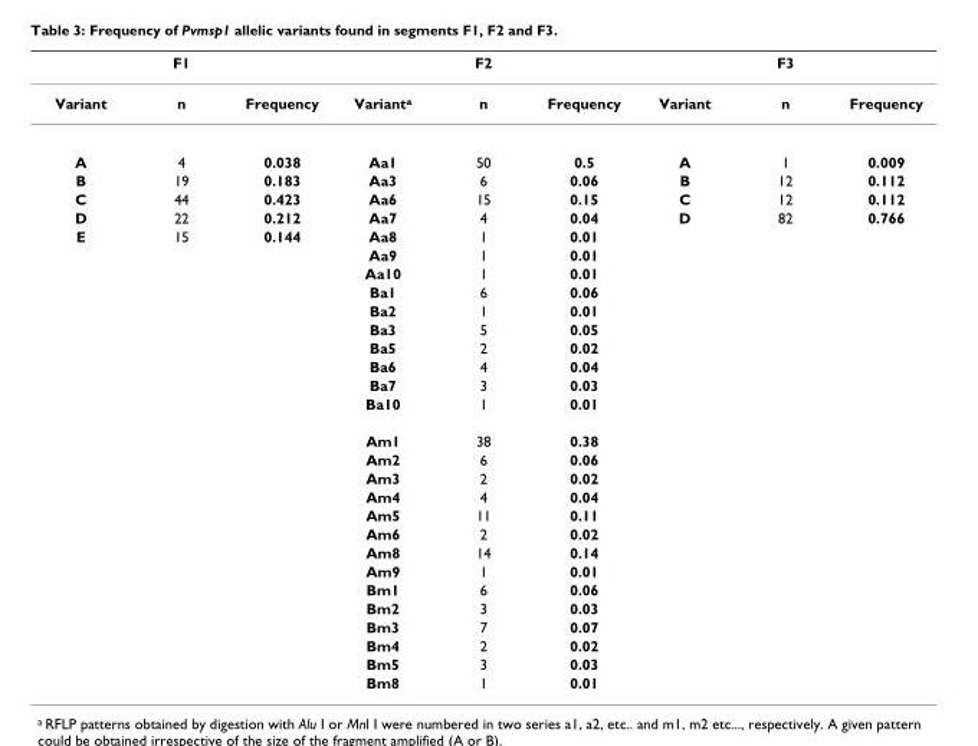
<table><thead><tr><td colspan="3">F1</td><td colspan="3">F2</td><td colspan="3">F3</td></tr><tr><td>Variant</td><td>n</td><td>Frequency</td><td>Variant<sup>a</sup></td><td>n</td><td>Frequency</td><td>Variant</td><td>n</td><td>Frequency</td></tr></thead><tbody><tr><td>A</td><td>4</td><td>0.038</td><td>Aa1</td><td>50</td><td>0.5</td><td>A</td><td>1</td><td>0.009</td></tr><tr><td>B</td><td>19</td><td>0.183</td><td>Aa3</td><td>6</td><td>0.06</td><td>B</td><td>12</td><td>0.112</td></tr><tr><td>C</td><td>44</td><td>0.423</td><td>Aa6</td><td>15</td><td>0.15</td><td>C</td><td>12</td><td>0.112</td></tr><tr><td>D</td><td>22</td><td>0.212</td><td>Aa7</td><td>4</td><td>0.04</td><td>D</td><td>82</td><td>0.766</td></tr><tr><td rowspan="24">E</td><td>15</td><td>0.144</td><td>Aa8</td><td>1</td><td>0.01</td><td></td><td></td><td></td></tr><tr><td></td><td></td><td>Aa9</td><td>1</td><td>0.01</td><td></td><td></td><td></td></tr><tr><td></td><td></td><td>Aa10</td><td>1</td><td>0.01</td><td></td><td></td><td></td></tr><tr><td></td><td></td><td>Ba1</td><td>6</td><td>0.06</td><td></td><td></td><td></td></tr><tr><td></td><td></td><td>Ba2</td><td>1</td><td>0.01</td><td></td><td></td><td></td></tr><tr><td></td><td></td><td>Ba3</td><td>5</td><td>0.05</td><td></td><td></td><td></td></tr><tr><td></td><td></td><td>Ba5</td><td>2</td><td>0.02</td><td></td><td></td><td></td></tr><tr><td></td><td></td><td>Ba6</td><td>4</td><td>0.04</td><td></td><td></td><td></td></tr><tr><td></td><td></td><td>Ba7</td><td>3</td><td>0.03</td><td></td><td></td><td></td></tr><tr><td></td><td></td><td>Ba10</td><td>1</td><td>0.01</td><td></td><td></td><td></td></tr><tr><td></td><td></td><td>Am1</td><td>38</td><td>0.38</td><td></td><td></td><td></td></tr><tr><td></td><td></td><td>Am2</td><td>6</td><td>0.06</td><td></td><td></td><td></td></tr><tr><td></td><td></td><td>Am3</td><td>2</td><td>0.02</td><td></td><td></td><td></td></tr><tr><td></td><td></td><td>Am4</td><td>4</td><td>0.04</td><td></td><td></td><td></td></tr><tr><td></td><td></td><td>Am5</td><td>11</td><td>0.11</td><td></td><td></td><td></td></tr><tr><td></td><td></td><td>Am6</td><td>2</td><td>0.02</td><td></td><td></td><td></td></tr><tr><td></td><td></td><td>Am8</td><td>14</td><td>0.14</td><td></td><td></td><td></td></tr><tr><td></td><td></td><td>Am9</td><td>1</td><td>0.01</td><td></td><td></td><td></td></tr><tr><td></td><td></td><td>Bm1</td><td>6</td><td>0.06</td><td></td><td></td><td></td></tr><tr><td></td><td></td><td>Bm2</td><td>3</td><td>0.03</td><td></td><td></td><td></td></tr><tr><td></td><td></td><td>Bm3</td><td>7</td><td>0.07</td><td></td><td></td><td></td></tr><tr><td></td><td></td><td>Bm4</td><td>2</td><td>0.02</td><td></td><td></td><td></td></tr><tr><td></td><td></td><td>Bm5</td><td>3</td><td>0.03</td><td></td><td></td><td></td></tr><tr><td></td><td></td><td>Bm8</td><td>1</td><td>0.01</td><td></td><td></td><td></td></tr></tbody></table>